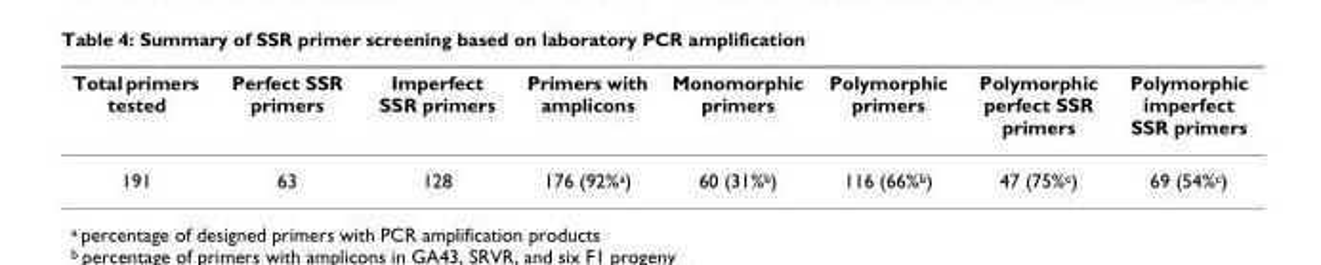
<table><thead><tr><td>Total primers tested</td><td>Perfect SSR primers</td><td>Imperfect SSR primers</td><td>Primers with amplicons</td><td>Monomorphic primers</td><td>Polymorphic primers</td><td>Polymorphic perfect SSR primers</td><td>Polymorphic imperfect SSR primers</td></tr></thead><tbody><tr><td>191</td><td>63</td><td>128</td><td>176 (92%<sup>a</sup>)</td><td>60 (31%<sup>b</sup>)</td><td>116 (66%<sup>b</sup>)</td><td>47 (75%<sup>c</sup>)</td><td>69 (54%<sup>c</sup>)</td></tr></tbody></table>